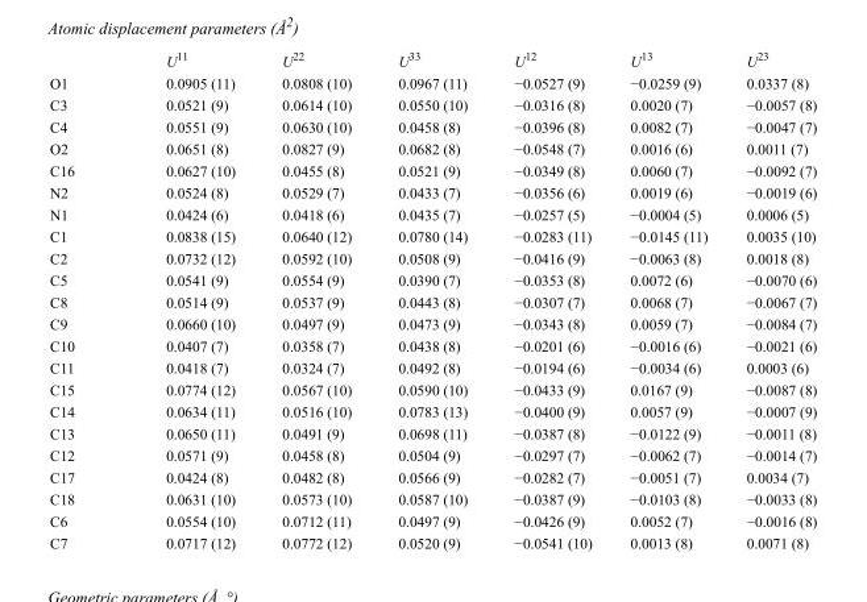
<table><thead><tr><td></td><td>U<sup>11</sup></td><td>U<sup>22</sup></td><td>U<sup>33</sup></td><td>U<sup>12</sup></td><td>U<sup>13</sup></td><td>U<sup>23</sup></td></tr></thead><tbody><tr><td>O1</td><td>0.0905 (11)</td><td>0.0808 (10)</td><td>0.0967 (11)</td><td>−0.0527 (9)</td><td>−0.0259 (9)</td><td>0.0337 (8)</td></tr><tr><td>C3</td><td>0.0521 (9)</td><td>0.0614 (10)</td><td>0.0550 (10)</td><td>−0.0316 (8)</td><td>0.0020 (7)</td><td>−0.0057 (8)</td></tr><tr><td>C4</td><td>0.0551 (9)</td><td>0.0630 (10)</td><td>0.0458 (8)</td><td>−0.0396 (8)</td><td>0.0082 (7)</td><td>−0.0047 (7)</td></tr><tr><td>O2</td><td>0.0651 (8)</td><td>0.0827 (9)</td><td>0.0682 (8)</td><td>−0.0548 (7)</td><td>0.0016 (6)</td><td>0.0011 (7)</td></tr><tr><td>C16</td><td>0.0627 (10)</td><td>0.0455 (8)</td><td>0.0521 (9)</td><td>−0.0349 (8)</td><td>0.0060 (7)</td><td>−0.0092 (7)</td></tr><tr><td>N2</td><td>0.0524 (8)</td><td>0.0529 (7)</td><td>0.0433 (7)</td><td>−0.0356 (6)</td><td>0.0019 (6)</td><td>−0.0019 (6)</td></tr><tr><td>N1</td><td>0.0424 (6)</td><td>0.0418 (6)</td><td>0.0435 (7)</td><td>−0.0257 (5)</td><td>−0.0004 (5)</td><td>0.0006 (5)</td></tr><tr><td>C1</td><td>0.0838 (15)</td><td>0.0640 (12)</td><td>0.0780 (14)</td><td>−0.0283 (11)</td><td>−0.0145 (11)</td><td>0.0035 (10)</td></tr><tr><td>C2</td><td>0.0732 (12)</td><td>0.0592 (10)</td><td>0.0508 (9)</td><td>−0.0416 (9)</td><td>−0.0063 (8)</td><td>0.0018 (8)</td></tr><tr><td>C5</td><td>0.0541 (9)</td><td>0.0554 (9)</td><td>0.0390 (7)</td><td>−0.0353 (8)</td><td>0.0072 (6)</td><td>−0.0070 (6)</td></tr><tr><td>C8</td><td>0.0514 (9)</td><td>0.0537 (9)</td><td>0.0443 (8)</td><td>−0.0307 (7)</td><td>0.0068 (7)</td><td>−0.0067 (7)</td></tr><tr><td>C9</td><td>0.0660 (10)</td><td>0.0497 (9)</td><td>0.0473 (9)</td><td>−0.0343 (8)</td><td>0.0059 (7)</td><td>−0.0084 (7)</td></tr><tr><td>C10</td><td>0.0407 (7)</td><td>0.0358 (7)</td><td>0.0438 (8)</td><td>−0.0201 (6)</td><td>−0.0016 (6)</td><td>−0.0021 (6)</td></tr><tr><td>C11</td><td>0.0418 (7)</td><td>0.0324 (7)</td><td>0.0492 (8)</td><td>−0.0194 (6)</td><td>−0.0034 (6)</td><td>0.0003 (6)</td></tr><tr><td>C15</td><td>0.0774 (12)</td><td>0.0567 (10)</td><td>0.0590 (10)</td><td>−0.0433 (9)</td><td>0.0167 (9)</td><td>−0.0087 (8)</td></tr><tr><td>C14</td><td>0.0634 (11)</td><td>0.0516 (10)</td><td>0.0783 (13)</td><td>−0.0400 (9)</td><td>0.0057 (9)</td><td>−0.0007 (9)</td></tr><tr><td>C13</td><td>0.0650 (11)</td><td>0.0491 (9)</td><td>0.0698 (11)</td><td>−0.0387 (8)</td><td>−0.0122 (9)</td><td>−0.0011 (8)</td></tr><tr><td>C12</td><td>0.0571 (9)</td><td>0.0458 (8)</td><td>0.0504 (9)</td><td>−0.0297 (7)</td><td>−0.0062 (7)</td><td>−0.0014 (7)</td></tr><tr><td>C17</td><td>0.0424 (8)</td><td>0.0482 (8)</td><td>0.0566 (9)</td><td>−0.0282 (7)</td><td>−0.0051 (7)</td><td>0.0034 (7)</td></tr><tr><td>C18</td><td>0.0631 (10)</td><td>0.0573 (10)</td><td>0.0587 (10)</td><td>−0.0387 (9)</td><td>−0.0103 (8)</td><td>−0.0033 (8)</td></tr><tr><td>C6</td><td>0.0554 (10)</td><td>0.0712 (11)</td><td>0.0497 (9)</td><td>−0.0426 (9)</td><td>0.0052 (7)</td><td>−0.0016 (8)</td></tr><tr><td>C7</td><td>0.0717 (12)</td><td>0.0772 (12)</td><td>0.0520 (9)</td><td>−0.0541 (10)</td><td>0.0013 (8)</td><td>0.0071 (8)</td></tr></tbody></table>